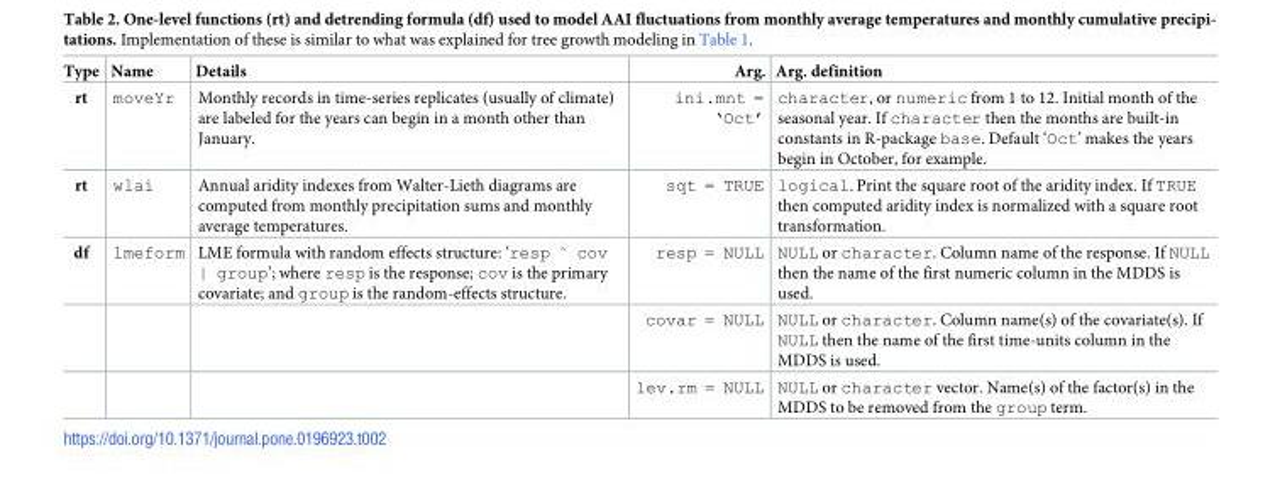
<table><thead><tr><td>Type</td><td>Name</td><td>Details</td><td>Arg.</td><td>Arg. definition</td></tr></thead><tbody><tr><td>rt</td><td>moveYr</td><td>Monthly records in time-series replicates (usually of climate) are labeled for the years can begin in a month other than January.</td><td>ini.mnt = ‘Oct’</td><td>character, or numeric from 1 to 12. Initial month of the seasonal year. If character then the months are built-in constants in R-package base. Default ‘Oct’ makes the years begin in October, for example.</td></tr><tr><td>rt</td><td>wlai</td><td>Annual aridity indexes from Walter-Lieth diagrams are computed from monthly precipitation sums and monthly average temperatures.</td><td>sqt = TRUE</td><td>logical. Print the square root of the aridity index. If TRUE then computed aridity index is normalized with a square root transformation.</td></tr><tr><td rowspan="3">df</td><td>lmeform</td><td>LME formula with random effects structure: ‘resp ˜ cov | group’; where resp is the response; cov is the primary covariate; and group is the random-effects structure.</td><td>resp = NULL</td><td>NULL or character. Column name of the response. If NULL then the name of the first numeric column in the MDDS is used.</td></tr><tr><td></td><td></td><td>covar = NULL</td><td>NULL or character. Column name(s) of the covariate(s). If NULL then the name of the first time-units column in the MDDS is used.</td></tr><tr><td></td><td></td><td>lev.rm = NULL</td><td>NULL or character vector. Name(s) of the factor(s) in the MDDS to be removed from the group term.</td></tr></tbody></table>